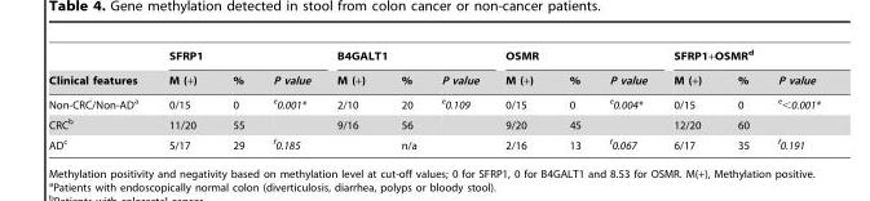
<table><thead><tr><td rowspan="2">Clinical features</td><td colspan="3">SFRP1</td><td colspan="3">B4GALT1</td><td colspan="3">OSMR</td><td colspan="3">SFRP1+OSMR<sup>d</sup></td></tr><tr><td>M (+)</td><td>%</td><td>P value</td><td>M (+)</td><td>%</td><td>P value</td><td>M (+)</td><td>%</td><td>P value</td><td>M (+)</td><td>%</td><td>P value</td></tr></thead><tbody><tr><td>Non-CRC/Non-AD<sup>a</sup></td><td>0/15</td><td>0</td><td><sup>e</sup>0.001*</td><td>2/10</td><td>20</td><td><sup>e</sup>0.109</td><td>0/15</td><td>0</td><td><sup>e</sup>0.004*</td><td>0/15</td><td>0</td><td><sup>e</sup>&lt;0.001*</td></tr><tr><td>CRC<sup>b</sup></td><td>11/20</td><td>55</td><td></td><td>9/16</td><td>56</td><td></td><td>9/20</td><td>45</td><td></td><td>12/20</td><td>60</td><td></td></tr><tr><td>AD<sup>c</sup></td><td>5/17</td><td>29</td><td><sup>f</sup>0.185</td><td></td><td>n/a</td><td></td><td>2/16</td><td>13</td><td><sup>f</sup>0.067</td><td>6/17</td><td>35</td><td><sup>f</sup>0.191</td></tr></tbody></table>